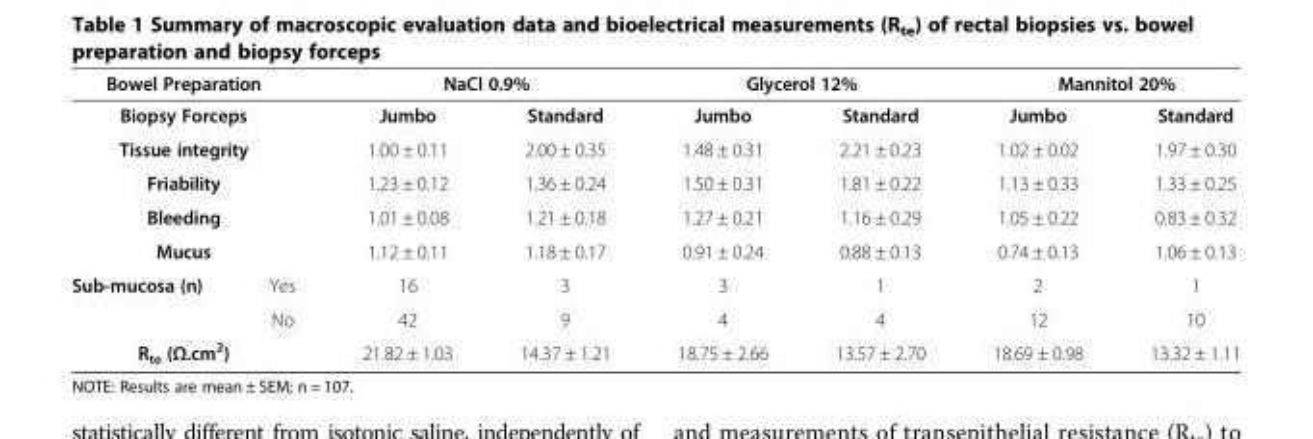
<table><thead><tr><td colspan="2">Bowel Preparation</td><td colspan="2">NaCl 0.9%</td><td colspan="2">Glycerol 12%</td><td colspan="2">Mannitol 20%</td></tr></thead><tbody><tr><td colspan="2">Biopsy Forceps</td><td>Jumbo</td><td>Standard</td><td>Jumbo</td><td>Standard</td><td>Jumbo</td><td>Standard</td></tr><tr><td colspan="2">Tissue integrity</td><td>1.00 ± 0.11</td><td>2.00 ± 0.35</td><td>1.48 ± 0.31</td><td>2.21 ± 0.23</td><td>1.02 ± 0.02</td><td>1.97 ± 0.30</td></tr><tr><td colspan="2">Friability</td><td>1.23 ± 0.12</td><td>1.36 ± 0.24</td><td>1.50 ± 0.31</td><td>1.81 ± 0.22</td><td>1.13 ± 0.33</td><td>1.33 ± 0.25</td></tr><tr><td colspan="2">Bleeding</td><td>1.01 ± 0.08</td><td>1.21 ± 0.18</td><td>1.27 ± 0.21</td><td>1.16 ± 0.29</td><td>1.05 ± 0.22</td><td>0.83 ± 0.32</td></tr><tr><td colspan="2">Mucus</td><td>1.12 ± 0.11</td><td>1.18 ± 0.17</td><td>0.91 ± 0.24</td><td>0.88 ± 0.13</td><td>0.74 ± 0.13</td><td>1.06 ± 0.13</td></tr><tr><td rowspan="2">Sub-mucosa (n)</td><td>Yes</td><td>16</td><td>3</td><td>3</td><td>1</td><td>2</td><td>1</td></tr><tr><td>No</td><td>42</td><td>9</td><td>4</td><td>4</td><td>12</td><td>10</td></tr><tr><td colspan="2">R<sub>te</sub> (Ω.cm<sup>2</sup>)</td><td>21.82 ± 1.03</td><td>14.37 ± 1.21</td><td>18.75 ± 2.66</td><td>13.57 ± 2.70</td><td>18.69 ± 0.98</td><td>13.32 ± 1.11</td></tr></tbody></table>